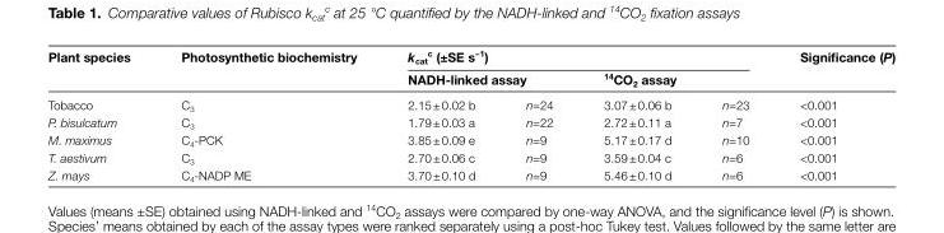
<table><thead><tr><td rowspan="3">Plant species Tobacco</td><td rowspan="3">Photosynthetic biochemistry C<sub>3</sub></td><td colspan="4">k<sub>cat</sub> <sup>c</sup> (±SE s<sup>−1</sup>)</td><td rowspan="3">Significance (P) &lt;0.001</td></tr><tr><td colspan="2">NADH-linked assay</td><td colspan="2"><sup>14</sup>CO<sub>2</sub> assay</td></tr><tr><td>2.15 ± 0.02 b</td><td>n=24</td><td>3.07 ± 0.06 b</td><td>n=23</td></tr></thead><tbody><tr><td>P. bisulcatum</td><td>C<sub>3</sub></td><td>1.79 ± 0.03 a</td><td>n=22</td><td>2.72 ± 0.11 a</td><td>n=7</td><td>&lt;0.001</td></tr><tr><td>M. maximus</td><td>C<sub>4</sub>-PCK</td><td>3.85 ± 0.09 e</td><td>n=9</td><td>5.17 ± 0.17 d</td><td>n=10</td><td>&lt;0.001</td></tr><tr><td>T. aestivum</td><td>C<sub>3</sub></td><td>2.70 ± 0.06 c</td><td>n=9</td><td>3.59 ± 0.04 c</td><td>n=6</td><td>&lt;0.001</td></tr><tr><td>Z. mays</td><td>C<sub>4</sub>-NADP ME</td><td>3.70 ± 0.10 d</td><td>n=9</td><td>5.46 ± 0.10 d</td><td>n=6</td><td>&lt;0.001</td></tr></tbody></table>